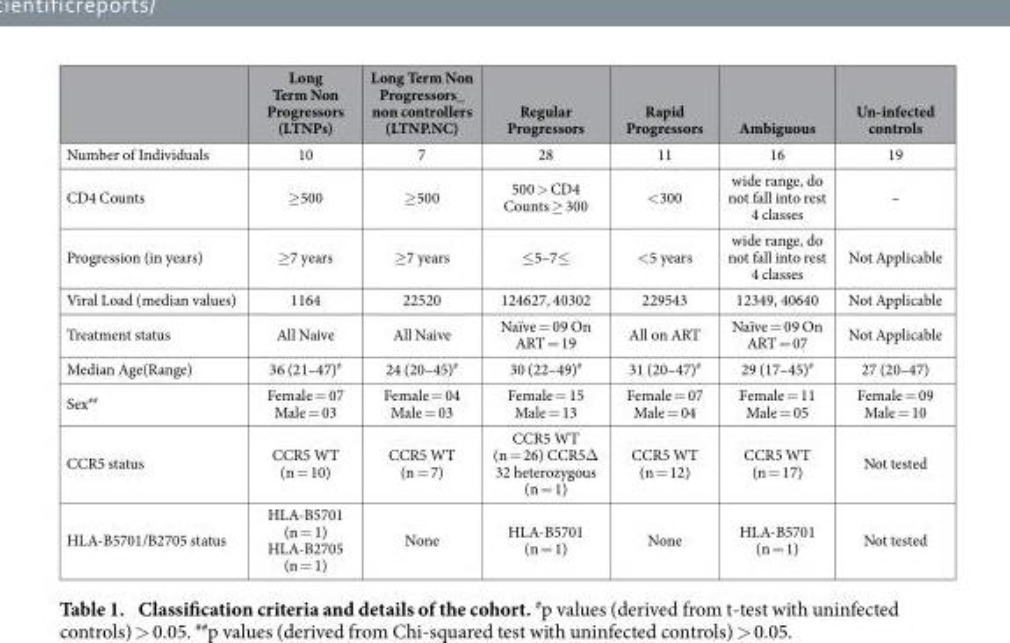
<table><thead><tr><td></td><td>Long Term Non Progressors (LTNPs)</td><td>Long Term Non Progressors_ non controllers (LTNP.NC)</td><td>Regular Progressors</td><td>Rapid Progressors</td><td>Ambiguous</td><td>Un-infected controls</td></tr></thead><tbody><tr><td>Number of Individuals</td><td>10</td><td>7</td><td>28</td><td>11</td><td>16</td><td>19</td></tr><tr><td>CD4 Counts</td><td>≥ 500</td><td>≥ 500</td><td>500 &gt; CD4 Counts ≥ 300</td><td>&lt; 300</td><td>wide range, do not fall into rest 4 classes</td><td>–</td></tr><tr><td>Progression (in years)</td><td>≥ 7 years</td><td>≥ 7 years</td><td>≤ 5–7≤</td><td>&lt; 5 years</td><td>wide range, do not fall into rest 4 classes</td><td>Not Applicable</td></tr><tr><td>Viral Load (median values)</td><td>1164</td><td>22520</td><td>124627, 40302</td><td>229543</td><td>12349, 40640</td><td>Not Applicable</td></tr><tr><td>Treatment status</td><td>All Naive</td><td>All Naive</td><td>Naïve = 09 On ART = 19</td><td>All on ART</td><td>Naïve = 09 On ART = 07</td><td>Not Applicable</td></tr><tr><td>Median Age(Range)</td><td>36 (21–47)<sup>#</sup></td><td>24 (20–45)<sup>#</sup></td><td>30 (22–49)<sup>#</sup></td><td>31 (20–47)<sup>#</sup></td><td>29 (17–45)<sup>#</sup></td><td>27 (20–47)</td></tr><tr><td>Sex<sup>##</sup></td><td>Female = 07 Male = 03</td><td>Female = 04 Male = 03</td><td>Female = 15 Male = 13</td><td>Female = 07 Male = 04</td><td>Female = 11 Male = 05</td><td>Female = 09 Male = 10</td></tr><tr><td>CCR5 status</td><td>CCR5 WT (n = 10)</td><td>CCR5 WT (n = 7)</td><td>CCR5 WT (n = 26) CCR5Δ 32 heterozygous (n = 1)</td><td>CCR5 WT (n = 12)</td><td>CCR5 WT (n = 17)</td><td>Not tested</td></tr><tr><td>HLA-B5701/B2705 status</td><td>HLA-B5701 (n = 1) HLA-B2705 (n = 1)</td><td>None</td><td>HLA-B5701 (n = 1)</td><td>None</td><td>HLA-B5701 (n = 1)</td><td>Not tested</td></tr></tbody></table>